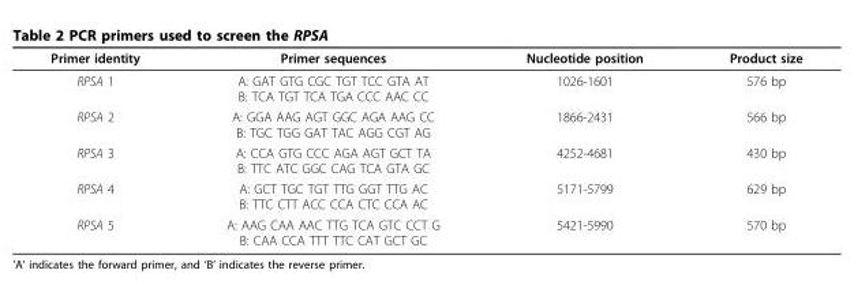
<table><thead><tr><td>Primer identity</td><td>Primer sequences</td><td>Nucleotide position</td><td>Product size</td></tr></thead><tbody><tr><td>RPSA 1</td><td>A: GAT GTG CGC TGT TCC GTA AT B: TCA TGT TCA TGA CCC AAC CC</td><td>1026-1601</td><td>576 bp</td></tr><tr><td>RPSA 2</td><td>A: GGA AAG AGT GGC AGA AAG CC B: TGC TGG GAT TAC AGG CGT AG</td><td>1866-2431</td><td>566 bp</td></tr><tr><td>RPSA 3</td><td>A: CCA GTG CCC AGA AGT GCT TA B: TTC ATC GGC CAG TCA GTA GC</td><td>4252-4681</td><td>430 bp</td></tr><tr><td>RPSA 4</td><td>A: GCT TGC TGT TTG GGT TTG AC B: TTC CTT ACC CCA CTC CCA AC</td><td>5171-5799</td><td>629 bp</td></tr><tr><td>RPSA 5</td><td>A: AAG CAA AAC TTG TCA GTC CCT G B: CAA CCA TTT TTC CAT GCT GC</td><td>5421-5990</td><td>570 bp</td></tr></tbody></table>